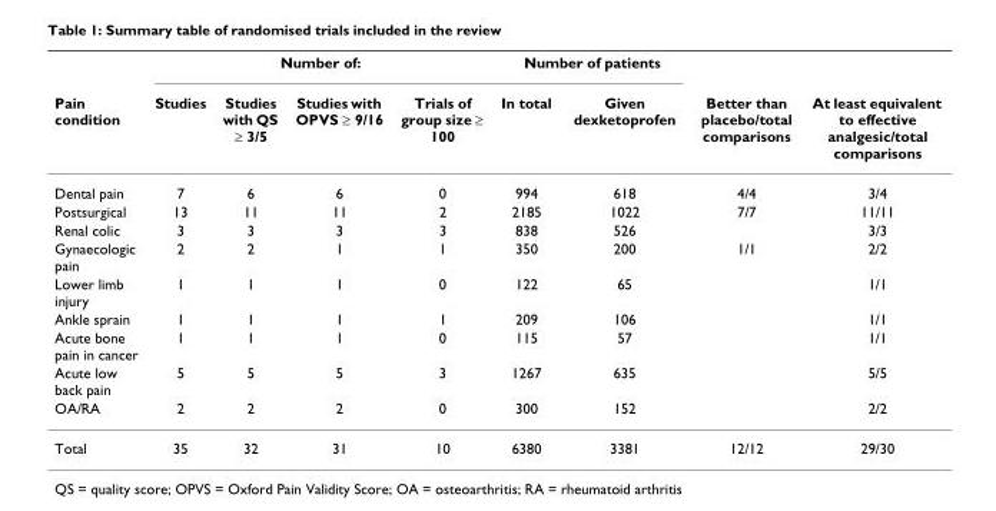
<table><thead><tr><td rowspan="2">Pain condition</td><td colspan="4">Number of:</td><td colspan="2">Number of patients</td><td rowspan="2">Better than placebo/total comparisons</td><td rowspan="2">At least equivalent to effective analgesic/total comparisons</td></tr><tr><td>Studies</td><td>Studies with QS ≥ 3/5</td><td>Studies with OPVS ≥ 9/16</td><td>Trials of group size ≥ 100</td><td>In total</td><td>Given dexketoprofen</td></tr></thead><tbody><tr><td>Dental pain</td><td>7</td><td>6</td><td>6</td><td>0</td><td>994</td><td>618</td><td>4/4</td><td>3/4</td></tr><tr><td>Postsurgical</td><td>13</td><td>11</td><td>11</td><td>2</td><td>2185</td><td>1022</td><td>7/7</td><td>11/11</td></tr><tr><td>Renal colic</td><td>3</td><td>3</td><td>3</td><td>3</td><td>838</td><td>526</td><td></td><td>3/3</td></tr><tr><td>Gynaecologic pain</td><td>2</td><td>2</td><td>1</td><td>1</td><td>350</td><td>200</td><td>1/1</td><td>2/2</td></tr><tr><td>Lower limb injury</td><td>1</td><td>1</td><td>1</td><td>0</td><td>122</td><td>65</td><td></td><td>1/1</td></tr><tr><td>Ankle sprain</td><td>1</td><td>1</td><td>1</td><td>1</td><td>209</td><td>106</td><td></td><td>1/1</td></tr><tr><td>Acute bone pain in cancer</td><td>1</td><td>1</td><td>1</td><td>0</td><td>115</td><td>57</td><td></td><td>1/1</td></tr><tr><td>Acute low back pain</td><td>5</td><td>5</td><td>5</td><td>3</td><td>1267</td><td>635</td><td></td><td>5/5</td></tr><tr><td>OA/RA</td><td>2</td><td>2</td><td>2</td><td>0</td><td>300</td><td>152</td><td></td><td>2/2</td></tr><tr><td>Total</td><td>35</td><td>32</td><td>31</td><td>10</td><td>6380</td><td>3381</td><td>12/12</td><td>29/30</td></tr></tbody></table>